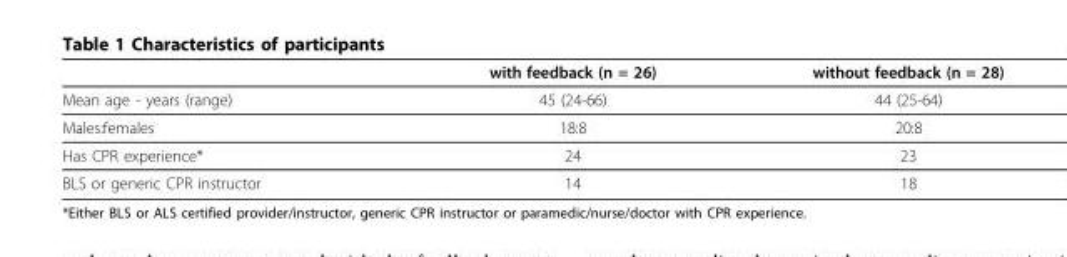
<table><thead><tr><td></td><td>with feedback (n = 26)</td><td>without feedback (n = 28)</td></tr></thead><tbody><tr><td>Mean age - years (range)</td><td>45 (24-66)</td><td>44 (25-64)</td></tr><tr><td>Males:females</td><td>18:8</td><td>20:8</td></tr><tr><td>Has CPR experience*</td><td>24</td><td>23</td></tr><tr><td>BLS or generic CPR instructor</td><td>14</td><td>18</td></tr></tbody></table>